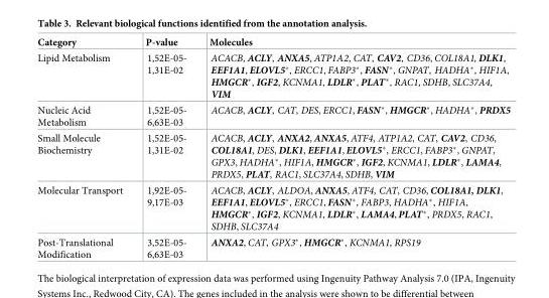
<table><thead><tr><td>Category</td><td>P-value</td><td>Molecules</td></tr></thead><tbody><tr><td>Lipid Metabolism</td><td>1,52E-05- 1,31E-02</td><td>ACACB, ACLY, ANXA5, ATP1A2, CAT, CAV2, CD36, COL18A1, DLK1, EEF1A1, ELOVL5*, ERCC1, FABP3*, FASN*, GNPAT, HADHA*, HIF1A, HMGCR*, IGF2, KCNMA1, LDLR*, PLAT*, RAC1, SDHB, SLC37A4, VIM</td></tr><tr><td>Nucleic Acid Metabolism</td><td>1,52E-05- 6,63E-03</td><td>ACACB, ACLY, CAT, DES, ERCC1, FASN*, HMGCR*, HADHA*, PRDX5</td></tr><tr><td>Small Molecule Biochemistry</td><td>1,52E-05- 1,31E-02</td><td>ACACB, ACLY, ANXA2, ANXA5, ATF4, ATP1A2, CAT, CAV2, CD36, COL18A1, DES, DLK1, EEF1A1, ELOVL5*, ERCC1, FABP3*, GNPAT, GPX3, HADHA*, HIF1A, HMGCR*, IGF2, KCNMA1, LDLR*, LAMA4, PRDX5, PLAT, RAC1, SLC37A4, SDHB, VIM</td></tr><tr><td>Molecular Transport</td><td>1,92E-05- 9,17E-03</td><td>ACACB, ACLY, ALDOA, ANXA5, ATF4, CAT, CD36, COL18A1, DLK1, EEF1A1, ELOVL5*, ERCC1, FASN*, FABP3, HADHA*, HIF1A, HMGCR*, IGF2, KCNMA1, LDLR*, LAMA4, PLAT*, PRDX5, RAC1, SDHB, SLC37A4</td></tr><tr><td>Post-Translational Modification</td><td>3,52E-05- 6,63E-03</td><td>ANXA2, CAT, GPX3*, HMGCR*, KCNMA1, RPS19</td></tr></tbody></table>